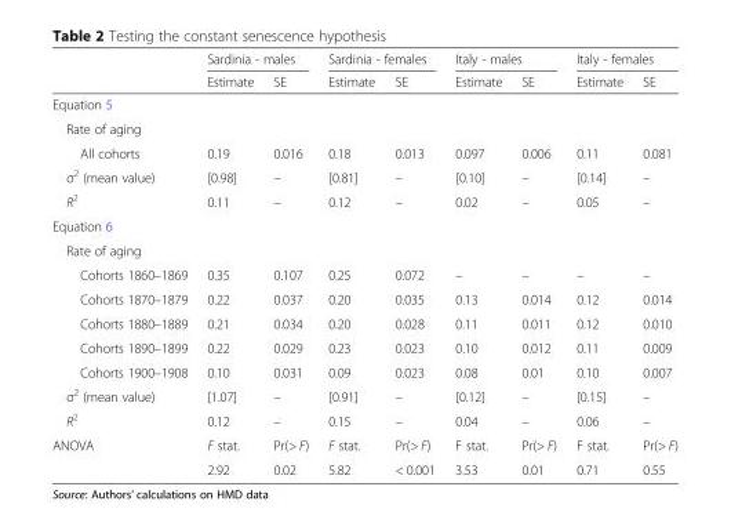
<table><thead><tr><td rowspan="2"></td><td colspan="2">Sardinia - males</td><td colspan="2">Sardinia - females</td><td colspan="2">Italy - males</td><td colspan="2">Italy - females</td></tr><tr><td>Estimate</td><td>SE</td><td>Estimate</td><td>SE</td><td>Estimate</td><td>SE</td><td>Estimate</td><td>SE</td></tr></thead><tbody><tr><td colspan="9">Equation 5</td></tr><tr><td colspan="9">Rate of aging</td></tr><tr><td>All cohorts</td><td>0.19</td><td>0.016</td><td>0.18</td><td>0.013</td><td>0.097</td><td>0.006</td><td>0.11</td><td>0.081</td></tr><tr><td>σ<sup>2</sup> (mean value)</td><td>[0.98]</td><td>–</td><td>[0.81]</td><td>–</td><td>[0.10]</td><td>–</td><td>[0.14]</td><td>–</td></tr><tr><td>R<sup>2</sup></td><td>0.11</td><td>–</td><td>0.12</td><td>–</td><td>0.02</td><td>–</td><td>0.05</td><td>–</td></tr><tr><td colspan="9">Equation 6</td></tr><tr><td colspan="9">Rate of aging</td></tr><tr><td>Cohorts 1860–1869</td><td>0.35</td><td>0.107</td><td>0.25</td><td>0.072</td><td>–</td><td>–</td><td>–</td><td>–</td></tr><tr><td>Cohorts 1870–1879</td><td>0.22</td><td>0.037</td><td>0.20</td><td>0.035</td><td>0.13</td><td>0.014</td><td>0.12</td><td>0.014</td></tr><tr><td>Cohorts 1880–1889</td><td>0.21</td><td>0.034</td><td>0.20</td><td>0.028</td><td>0.11</td><td>0.011</td><td>0.12</td><td>0.010</td></tr><tr><td>Cohorts 1890–1899</td><td>0.22</td><td>0.029</td><td>0.23</td><td>0.023</td><td>0.10</td><td>0.012</td><td>0.11</td><td>0.009</td></tr><tr><td>Cohorts 1900–1908</td><td>0.10</td><td>0.031</td><td>0.09</td><td>0.023</td><td>0.08</td><td>0.01</td><td>0.10</td><td>0.007</td></tr><tr><td>σ<sup>2</sup> (mean value)</td><td>[1.07]</td><td>–</td><td>[0.91]</td><td>–</td><td>[0.12]</td><td>–</td><td>[0.15]</td><td>–</td></tr><tr><td>R<sup>2</sup></td><td>0.12</td><td>–</td><td>0.15</td><td>–</td><td>0.04</td><td>–</td><td>0.06</td><td>–</td></tr><tr><td rowspan="2">ANOVA</td><td>F stat.</td><td>Pr(&gt; F)</td><td>F stat.</td><td>Pr(&gt; F)</td><td>F stat.</td><td>Pr(&gt; F)</td><td>F stat.</td><td>Pr(&gt; F)</td></tr><tr><td>2.92</td><td>0.02</td><td>5.82</td><td>&lt; 0.001</td><td>3.53</td><td>0.01</td><td>0.71</td><td>0.55</td></tr></tbody></table>